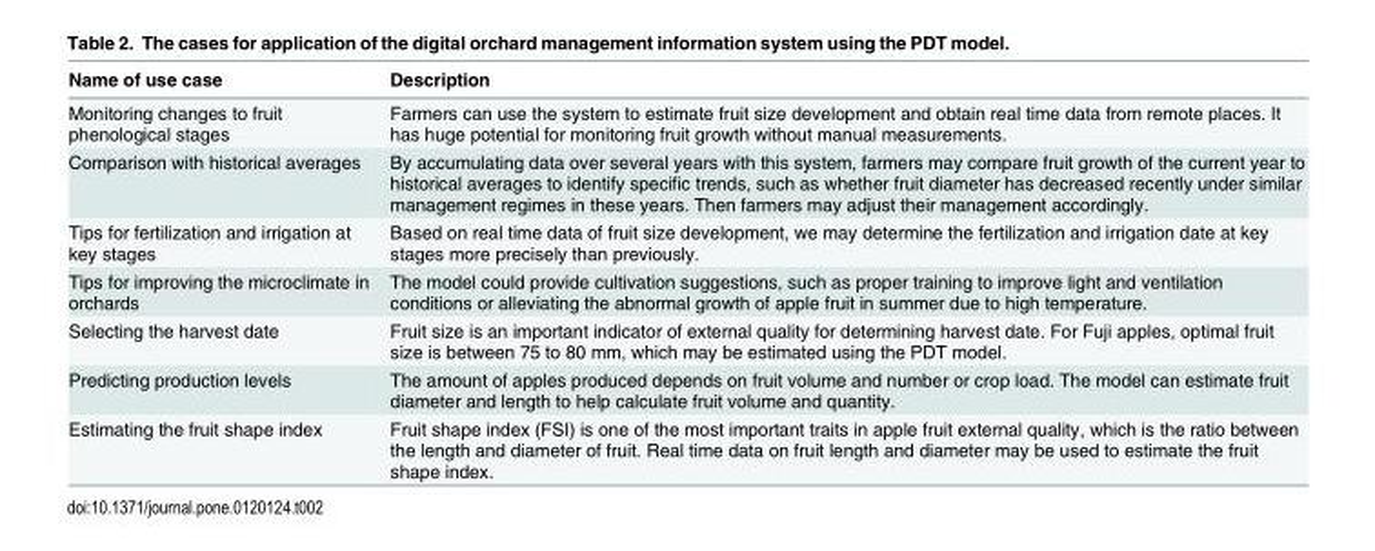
<table><thead><tr><td>Name of use case</td><td>Description</td></tr></thead><tbody><tr><td>Monitoring changes to fruit phenological stages</td><td>Farmers can use the system to estimate fruit size development and obtain real time data from remote places. It has huge potential for monitoring fruit growth without manual measurements.</td></tr><tr><td>Comparison with historical averages</td><td>By accumulating data over several years with this system, farmers may compare fruit growth of the current year to historical averages to identify specific trends, such as whether fruit diameter has decreased recently under similar management regimes in these years. Then farmers may adjust their management accordingly.</td></tr><tr><td>Tips for fertilization and irrigation at key stages</td><td>Based on real time data of fruit size development, we may determine the fertilization and irrigation date at key stages more precisely than previously.</td></tr><tr><td>Tips for improving the microclimate in orchards</td><td>The model could provide cultivation suggestions, such as proper training to improve light and ventilation conditions or alleviating the abnormal growth of apple fruit in summer due to high temperature.</td></tr><tr><td>Selecting the harvest date</td><td>Fruit size is an important indicator of external quality for determining harvest date. For Fuji apples, optimal fruit size is between 75 to 80 mm, which may be estimated using the PDT model.</td></tr><tr><td>Predicting production levels</td><td>The amount of apples produced depends on fruit volume and number or crop load. The model can estimate fruit diameter and length to help calculate fruit volume and quantity.</td></tr><tr><td>Estimating the fruit shape index</td><td>Fruit shape index (FSI) is one of the most important traits in apple fruit external quality, which is the ratio between the length and diameter of fruit. Real time data on fruit length and diameter may be used to estimate the fruit shape index.</td></tr></tbody></table>